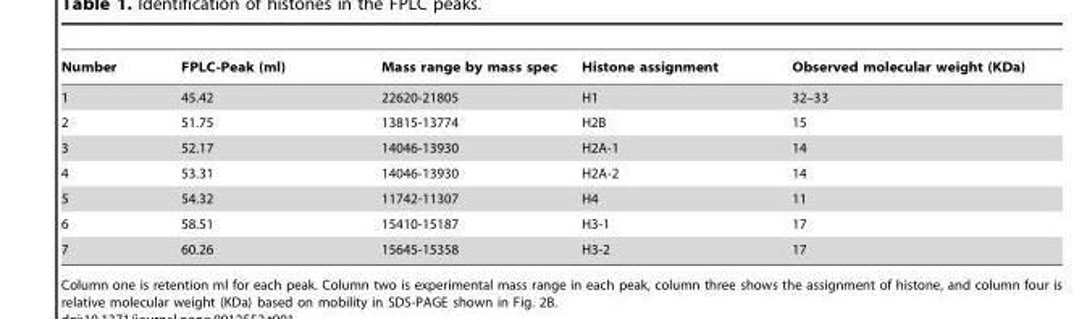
<table><thead><tr><td>Number</td><td>FPLC-Peak (ml)</td><td>Mass range by mass spec</td><td>Histone assignment</td><td>Observed molecular weight (KDa)</td></tr></thead><tbody><tr><td>1</td><td>45.42</td><td>22620-21805</td><td>H1</td><td>32–33</td></tr><tr><td>2</td><td>51.75</td><td>13815-13774</td><td>H2B</td><td>15</td></tr><tr><td>3</td><td>52.17</td><td>14046-13930</td><td>H2A-1</td><td>14</td></tr><tr><td>4</td><td>53.31</td><td>14046-13930</td><td>H2A-2</td><td>14</td></tr><tr><td>5</td><td>54.32</td><td>11742-11307</td><td>H4</td><td>11</td></tr><tr><td>6</td><td>58.51</td><td>15410-15187</td><td>H3-1</td><td>17</td></tr><tr><td>7</td><td>60.26</td><td>15645-15358</td><td>H3-2</td><td>17</td></tr></tbody></table>